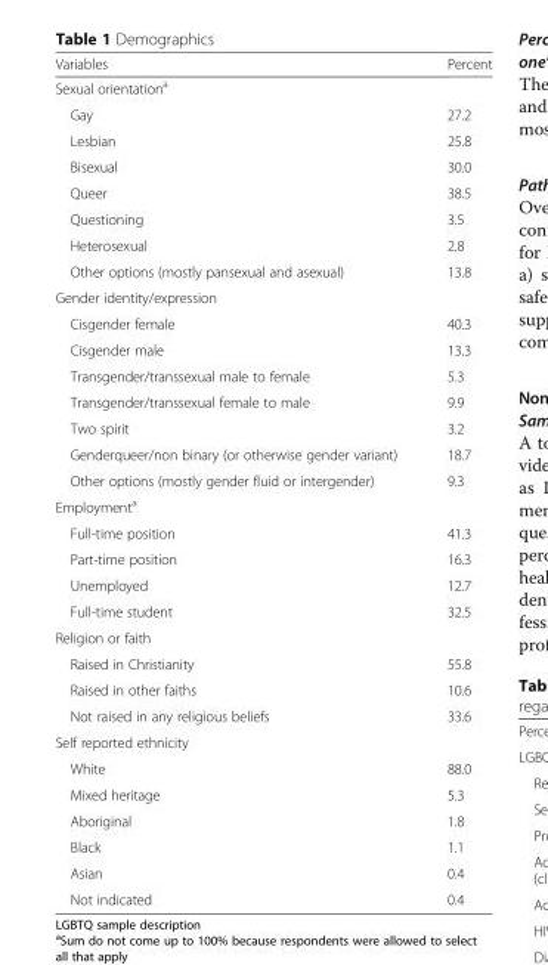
<table><thead><tr><td>Variables</td><td>Percent</td></tr></thead><tbody><tr><td colspan="2">Sexual orientation<sup>a</sup></td></tr><tr><td>Gay</td><td>27.2</td></tr><tr><td>Lesbian</td><td>25.8</td></tr><tr><td>Bisexual</td><td>30.0</td></tr><tr><td>Queer</td><td>38.5</td></tr><tr><td>Questioning</td><td>3.5</td></tr><tr><td>Heterosexual</td><td>2.8</td></tr><tr><td>Other options (mostly pansexual and asexual)</td><td>13.8</td></tr><tr><td colspan="2">Gender identity/expression</td></tr><tr><td>Cisgender female</td><td>40.3</td></tr><tr><td>Cisgender male</td><td>13.3</td></tr><tr><td>Transgender/transsexual male to female</td><td>5.3</td></tr><tr><td>Transgender/transsexual female to male</td><td>9.9</td></tr><tr><td>Two spirit</td><td>3.2</td></tr><tr><td>Genderqueer/non binary (or otherwise gender variant)</td><td>18.7</td></tr><tr><td>Other options (mostly gender fluid or intergender)</td><td>9.3</td></tr><tr><td colspan="2">Employment<sup>a</sup></td></tr><tr><td>Full-time position</td><td>41.3</td></tr><tr><td>Part-time position</td><td>16.3</td></tr><tr><td>Unemployed</td><td>12.7</td></tr><tr><td>Full-time student</td><td>32.5</td></tr><tr><td colspan="2">Religion or faith</td></tr><tr><td>Raised in Christianity</td><td>55.8</td></tr><tr><td>Raised in other faiths</td><td>10.6</td></tr><tr><td>Not raised in any religious beliefs</td><td>33.6</td></tr><tr><td colspan="2">Self reported ethnicity</td></tr><tr><td>White</td><td>88.0</td></tr><tr><td>Mixed heritage</td><td>5.3</td></tr><tr><td>Aboriginal</td><td>1.8</td></tr><tr><td>Black</td><td>1.1</td></tr><tr><td>Asian</td><td>0.4</td></tr><tr><td>Not indicated</td><td>0.4</td></tr></tbody></table>